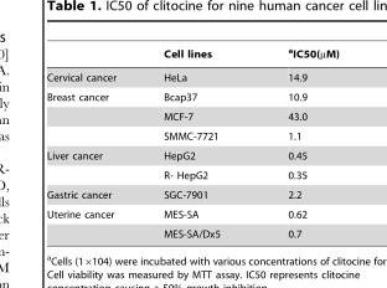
<table><thead><tr><td></td><td>Cell lines</td><td>aIC50(µM)</td></tr></thead><tbody><tr><td>Cervical cancer</td><td>HeLa</td><td>14.9</td></tr><tr><td rowspan="3">Breast cancer</td><td>Bcap37</td><td>10.9</td></tr><tr><td>MCF-7</td><td>43.0</td></tr><tr><td>SMMC-7721</td><td>1.1</td></tr><tr><td rowspan="2">Liver cancer</td><td>HepG2</td><td>0.45</td></tr><tr><td>R- HepG2</td><td>0.35</td></tr><tr><td>Gastric cancer</td><td>SGC-7901</td><td>2.2</td></tr><tr><td rowspan="2">Uterine cancer</td><td>MES-SA</td><td>0.62</td></tr><tr><td>MES-SA/Dx5</td><td>0.7</td></tr></tbody></table>